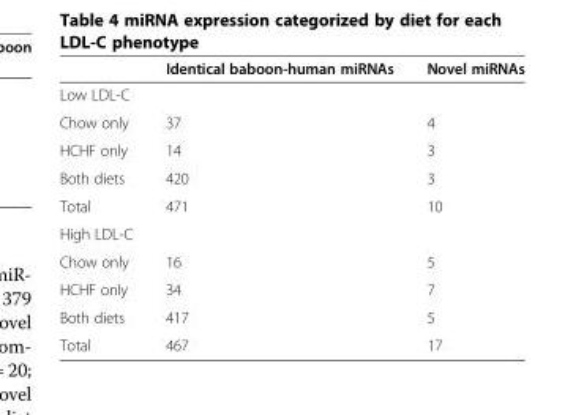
<table><thead><tr><td></td><td>Identical baboon-human miRNAs</td><td>Novel miRNAs</td></tr></thead><tbody><tr><td colspan="3">Low LDL-C</td></tr><tr><td>Chow only</td><td>37</td><td>4</td></tr><tr><td>HCHF only</td><td>14</td><td>3</td></tr><tr><td>Both diets</td><td>420</td><td>3</td></tr><tr><td>Total</td><td>471</td><td>10</td></tr><tr><td colspan="3">High LDL-C</td></tr><tr><td>Chow only</td><td>16</td><td>5</td></tr><tr><td>HCHF only</td><td>34</td><td>7</td></tr><tr><td>Both diets</td><td>417</td><td>5</td></tr><tr><td>Total</td><td>467</td><td>17</td></tr></tbody></table>